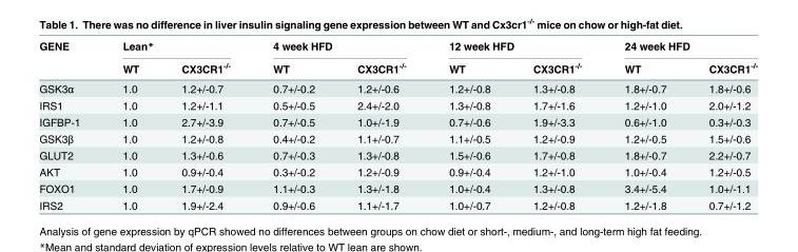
<table><thead><tr><td rowspan="2">GENE</td><td colspan="2">Lean*</td><td colspan="2">4 week HFD</td><td colspan="2">12 week HFD</td><td colspan="2">24 week HFD</td></tr><tr><td>WT</td><td>CX3CR1<sup>-/-</sup></td><td>WT</td><td>CX3CR1<sup>-/-</sup></td><td>WT</td><td>CX3CR1<sup>-/-</sup></td><td>WT</td><td>CX3CR1<sup>-/-</sup></td></tr></thead><tbody><tr><td>GSK3α</td><td>1.0</td><td>1.2+/-0.7</td><td>0.7+/-0.2</td><td>1.2+/-0.6</td><td>1.2+/-0.8</td><td>1.3+/-0.8</td><td>1.8+/-0.7</td><td>1.8+/-0.6</td></tr><tr><td>IRS1</td><td>1.0</td><td>1.2+/-1.1</td><td>0.5+/-0.5</td><td>2.4+/-2.0</td><td>1.3+/-0.8</td><td>1.7+/-1.6</td><td>1.2+/-1.0</td><td>2.0+/-1.2</td></tr><tr><td>IGFBP-1</td><td>1.0</td><td>2.7+/-3.9</td><td>0.7+/-0.5</td><td>1.0+/-1.9</td><td>0.7+/-0.6</td><td>1.9+/-3.3</td><td>0.6+/-1.0</td><td>0.3+/-0.3</td></tr><tr><td>GSK3β</td><td>1.0</td><td>1.2+/-0.8</td><td>0.4+/-0.2</td><td>1.1+/-0.7</td><td>1.1+/-0.5</td><td>1.2+/-0.9</td><td>1.2+/-0.5</td><td>1.5+/-0.6</td></tr><tr><td>GLUT2</td><td>1.0</td><td>1.3+/-0.6</td><td>0.7+/-0.3</td><td>1.3+/-0.8</td><td>1.5+/-0.6</td><td>1.7+/-0.8</td><td>1.8+/-0.7</td><td>2.2+/-0.7</td></tr><tr><td>AKT</td><td>1.0</td><td>0.9+/-0.4</td><td>0.3+/-0.2</td><td>1.2+/-0.9</td><td>0.9+/-0.4</td><td>1.2+/-1.0</td><td>1.0+/-0.4</td><td>1.2+/-0.5</td></tr><tr><td>FOXO1</td><td>1.0</td><td>1.7+/-0.9</td><td>1.1+/-0.3</td><td>1.3+/-1.8</td><td>1.0+/-0.4</td><td>1.3+/-0.8</td><td>3.4+/-5.4</td><td>1.0+/-1.1</td></tr><tr><td>IRS2</td><td>1.0</td><td>1.9+/-2.4</td><td>0.9+/-0.6</td><td>1.1+/-1.7</td><td>1.0+/-0.7</td><td>1.2+/-0.8</td><td>1.2+/-1.8</td><td>0.7+/-1.2</td></tr></tbody></table>